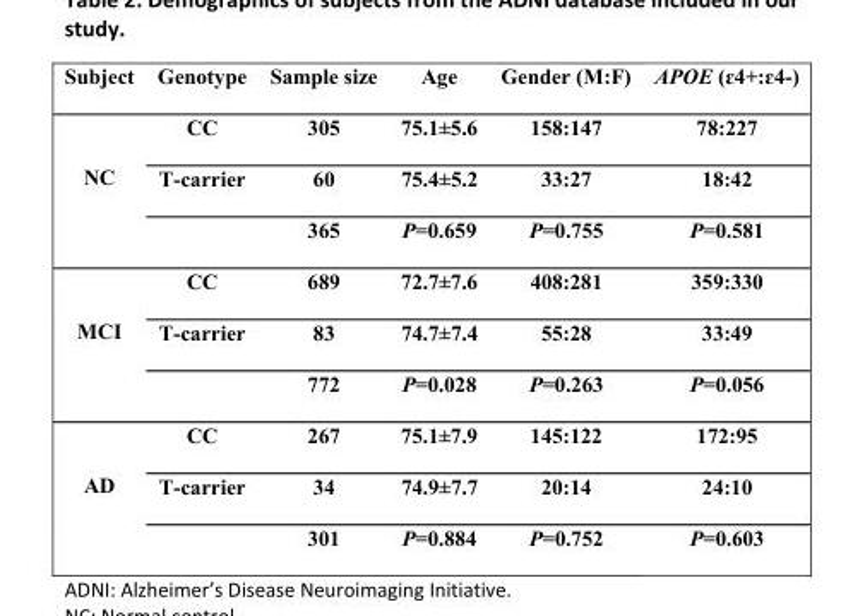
<table><thead><tr><td>Subject</td><td>Genotype</td><td>Sample size</td><td>Age</td><td>Gender (M:F)</td><td>APOE (ɛ4+:ɛ4-)</td></tr></thead><tbody><tr><td rowspan="3">NC</td><td>CC</td><td>305</td><td>75.1±5.6</td><td>158:147</td><td>78:227</td></tr><tr><td>T-carrier</td><td>60</td><td>75.4±5.2</td><td>33:27</td><td>18:42</td></tr><tr><td></td><td>365</td><td>P=0.659</td><td>P=0.755</td><td>P=0.581</td></tr><tr><td rowspan="3">MCI</td><td>CC</td><td>689</td><td>72.7±7.6</td><td>408:281</td><td>359:330</td></tr><tr><td>T-carrier</td><td>83</td><td>74.7±7.4</td><td>55:28</td><td>33:49</td></tr><tr><td></td><td>772</td><td>P=0.028</td><td>P=0.263</td><td>P=0.056</td></tr><tr><td rowspan="3">AD</td><td>CC</td><td>267</td><td>75.1±7.9</td><td>145:122</td><td>172:95</td></tr><tr><td>T-carrier</td><td>34</td><td>74.9±7.7</td><td>20:14</td><td>24:10</td></tr><tr><td></td><td>301</td><td>P=0.884</td><td>P=0.752</td><td>P=0.603</td></tr></tbody></table>